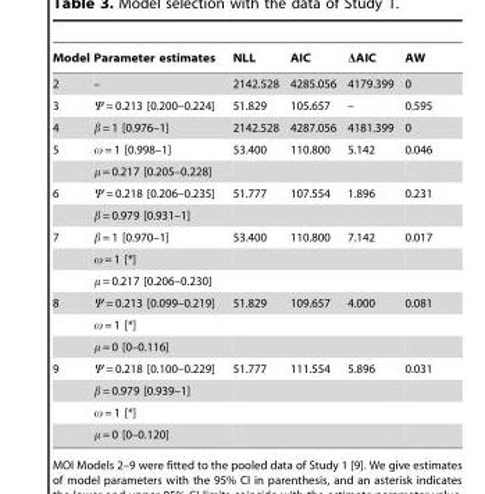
<table><thead><tr><td>Model</td><td>Parameter estimates</td><td>NLL</td><td>AIC</td><td>ΔAIC</td><td>AW</td></tr></thead><tbody><tr><td>2</td><td>–</td><td>2142.528</td><td>4285.056</td><td>4179.399</td><td>0</td></tr><tr><td>3</td><td>Ψ = 0.213 [0.200–0.224]</td><td>51.829</td><td>105.657</td><td>–</td><td>0.595</td></tr><tr><td>4</td><td>β = 1 [0.976–1]</td><td>2142.528</td><td>4287.056</td><td>4181.399</td><td>0</td></tr><tr><td rowspan="2">5</td><td>ω = 1 [0.998–1]</td><td>53.400</td><td>110.800</td><td>5.142</td><td>0.046</td></tr><tr><td>μ = 0.217 [0.205–0.228]</td><td></td><td></td><td></td><td></td></tr><tr><td rowspan="2">6</td><td>Ψ = 0.218 [0.206–0.235]</td><td>51.777</td><td>107.554</td><td>1.896</td><td>0.231</td></tr><tr><td>β = 0.979 [0.931–1]</td><td></td><td></td><td></td><td></td></tr><tr><td rowspan="3">7</td><td>β = 1 [0.970–1]</td><td>53.400</td><td>110.800</td><td>7.142</td><td>0.017</td></tr><tr><td>ω = 1 [*]</td><td></td><td></td><td></td><td></td></tr><tr><td>μ = 0.217 [0.206–0.230]</td><td></td><td></td><td></td><td></td></tr><tr><td rowspan="3">8</td><td>Ψ = 0.213 [0.099–0.219]</td><td>51.829</td><td>109.657</td><td>4.000</td><td>0.081</td></tr><tr><td>ω = 1 [*]</td><td></td><td></td><td></td><td></td></tr><tr><td>μ = 0 [0–0.116]</td><td></td><td></td><td></td><td></td></tr><tr><td rowspan="4">9</td><td>Ψ = 0.218 [0.100–0.229]</td><td>51.777</td><td>111.554</td><td>5.896</td><td>0.031</td></tr><tr><td>β = 0.979 [0.939–1]</td><td></td><td></td><td></td><td></td></tr><tr><td>ω = 1 [*]</td><td></td><td></td><td></td><td></td></tr><tr><td>μ = 0 [0–0.120]</td><td></td><td></td><td></td><td></td></tr></tbody></table>